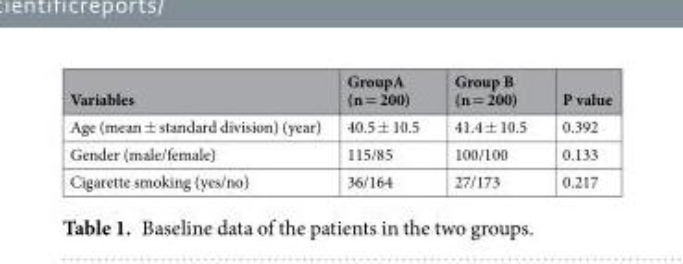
<table><thead><tr><td>Variables</td><td>GroupA (n = 200)</td><td>Group B (n = 200)</td><td>P value</td></tr></thead><tbody><tr><td>Age (mean ± standard division) (year)</td><td>40.5 ± 10.5</td><td>41.4 ± 10.5</td><td>0.392</td></tr><tr><td>Gender (male/female)</td><td>115/85</td><td>100/100</td><td>0.133</td></tr><tr><td>Cigarette smoking (yes/no)</td><td>36/164</td><td>27/173</td><td>0.217</td></tr></tbody></table>